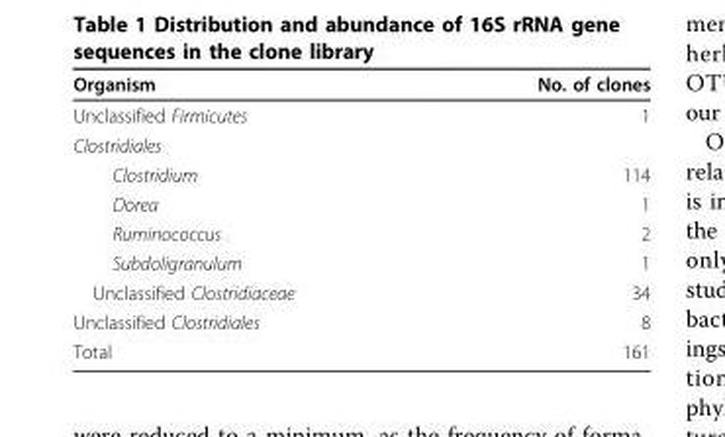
<table><thead><tr><td>Organism</td><td>No. of clones</td></tr></thead><tbody><tr><td>Unclassified Firmicutes</td><td>1</td></tr><tr><td colspan="2">Clostridiales</td></tr><tr><td>Clostridium</td><td>114</td></tr><tr><td>Dorea</td><td>1</td></tr><tr><td>Ruminococcus</td><td>2</td></tr><tr><td>Subdoligranulum</td><td>1</td></tr><tr><td>Unclassified Clostridiaceae</td><td>34</td></tr><tr><td>Unclassified Clostridiales</td><td>8</td></tr><tr><td>Total</td><td>161</td></tr></tbody></table>